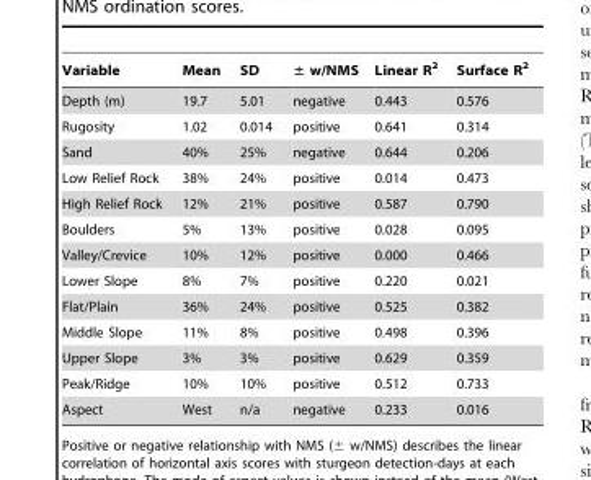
<table><thead><tr><td>Variable</td><td>Mean</td><td>SD</td><td>± w/NMS</td><td>Linear R<sup>2</sup></td><td>Surface R<sup>2</sup></td></tr></thead><tbody><tr><td>Depth (m)</td><td>19.7</td><td>5.01</td><td>negative</td><td>0.443</td><td>0.576</td></tr><tr><td>Rugosity</td><td>1.02</td><td>0.014</td><td>positive</td><td>0.641</td><td>0.314</td></tr><tr><td>Sand</td><td>40%</td><td>25%</td><td>negative</td><td>0.644</td><td>0.206</td></tr><tr><td>Low Relief Rock</td><td>38%</td><td>24%</td><td>positive</td><td>0.014</td><td>0.473</td></tr><tr><td>High Relief Rock</td><td>12%</td><td>21%</td><td>positive</td><td>0.587</td><td>0.790</td></tr><tr><td>Boulders</td><td>5%</td><td>13%</td><td>positive</td><td>0.028</td><td>0.095</td></tr><tr><td>Valley/Crevice</td><td>10%</td><td>12%</td><td>positive</td><td>0.000</td><td>0.466</td></tr><tr><td>Lower Slope</td><td>8%</td><td>7%</td><td>positive</td><td>0.220</td><td>0.021</td></tr><tr><td>Flat/Plain</td><td>36%</td><td>24%</td><td>positive</td><td>0.525</td><td>0.382</td></tr><tr><td>Middle Slope</td><td>11%</td><td>8%</td><td>positive</td><td>0.498</td><td>0.396</td></tr><tr><td>Upper Slope</td><td>3%</td><td>3%</td><td>positive</td><td>0.629</td><td>0.359</td></tr><tr><td>Peak/Ridge</td><td>10%</td><td>10%</td><td>positive</td><td>0.512</td><td>0.733</td></tr><tr><td>Aspect</td><td>West</td><td>n/a</td><td>negative</td><td>0.233</td><td>0.016</td></tr></tbody></table>